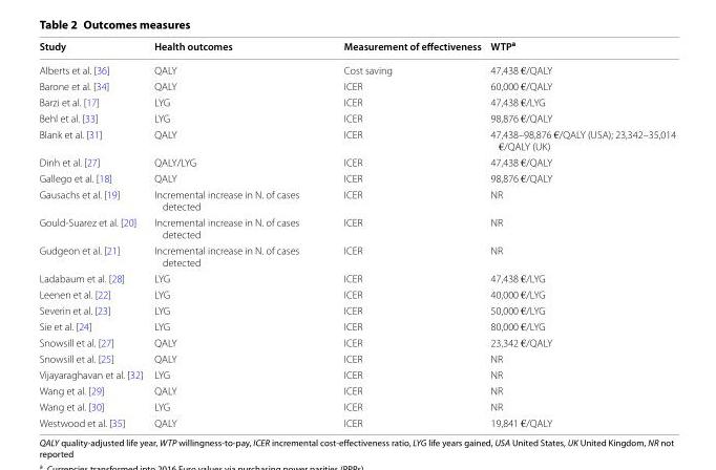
<table><thead><tr><td>Study</td><td>Health outcomes</td><td>Measurement of effectiveness</td><td>WTP<sup>a</sup></td></tr></thead><tbody><tr><td>Alberts et al. [36]</td><td>QALY</td><td>Cost saving</td><td>47,438 €/QALY</td></tr><tr><td>Barone et al. [34]</td><td>QALY</td><td>ICER</td><td>60,000 €/QALY</td></tr><tr><td>Barzi et al. [17]</td><td>LYG</td><td>ICER</td><td>47,438 €/LYG</td></tr><tr><td>Behl et al. [33]</td><td>LYG</td><td>ICER</td><td>98,876 €/QALY</td></tr><tr><td>Blank et al. [31]</td><td>QALY</td><td>ICER</td><td>47,438–98,876 €/QALY (USA); 23,342–35,014 €/QALY (UK)</td></tr><tr><td>Dinh et al. [27]</td><td>QALY/LYG</td><td>ICER</td><td>47,438 €/QALY</td></tr><tr><td>Gallego et al. [18]</td><td>QALY</td><td>ICER</td><td>98,876 €/QALY</td></tr><tr><td>Gausachs et al. [19]</td><td>Incremental increase in N. of cases detected</td><td>ICER</td><td>NR</td></tr><tr><td>Gould-Suarez et al. [20]</td><td>Incremental increase in N. of cases detected</td><td>ICER</td><td>NR</td></tr><tr><td>Gudgeon et al. [21]</td><td>Incremental increase in N. of cases detected</td><td>ICER</td><td>NR</td></tr><tr><td>Ladabaum et al. [28]</td><td>LYG</td><td>ICER</td><td>47,438 €/LYG</td></tr><tr><td>Leenen et al. [22]</td><td>LYG</td><td>ICER</td><td>40,000 €/LYG</td></tr><tr><td>Severin et al. [23]</td><td>LYG</td><td>ICER</td><td>50,000 €/LYG</td></tr><tr><td>Sie et al. [24]</td><td>LYG</td><td>ICER</td><td>80,000 €/LYG</td></tr><tr><td>Snowsill et al. [27]</td><td>QALY</td><td>ICER</td><td>23,342 €/QALY</td></tr><tr><td>Snowsill et al. [25]</td><td>QALY</td><td>ICER</td><td>NR</td></tr><tr><td>Vijayaraghavan et al. [32]</td><td>LYG</td><td>ICER</td><td>NR</td></tr><tr><td>Wang et al. [29]</td><td>QALY</td><td>ICER</td><td>NR</td></tr><tr><td>Wang et al. [30]</td><td>LYG</td><td>ICER</td><td>NR</td></tr><tr><td>Westwood et al. [35]</td><td>QALY</td><td>ICER</td><td>19,841 €/QALY</td></tr></tbody></table>